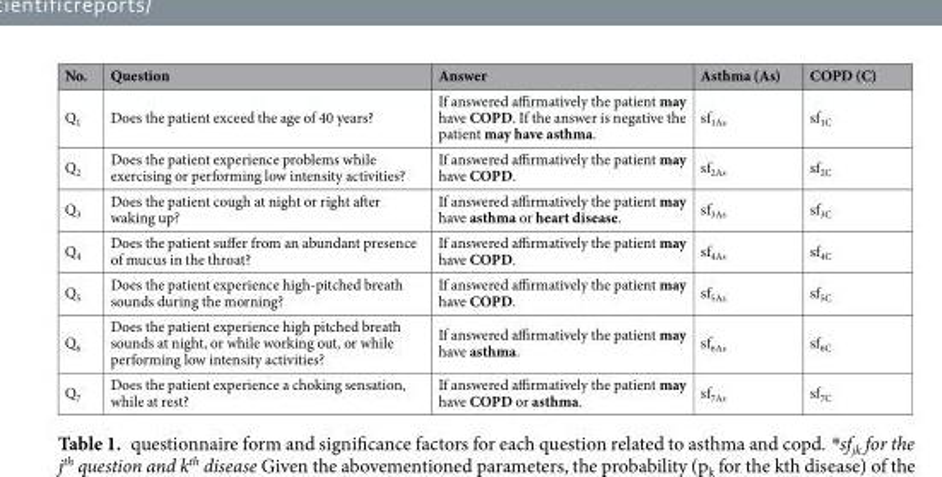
<table><thead><tr><td>No.</td><td>Question</td><td>Answer</td><td>Asthma (As)</td><td>COPD (C)</td></tr></thead><tbody><tr><td>Q<sub>1</sub></td><td>Does the patient exceed the age of 40 years?</td><td>If answered affirmatively the patient may have COPD. If the answer is negative the patient may have asthma.</td><td>sf<sub>1As</sub></td><td>sf<sub>1C</sub></td></tr><tr><td>Q<sub>2</sub></td><td>Does the patient experience problems while exercising or performing low intensity activities?</td><td>If answered affirmatively the patient may have COPD.</td><td>sf<sub>2As</sub></td><td>sf<sub>2C</sub></td></tr><tr><td>Q<sub>3</sub></td><td>Does the patient cough at night or right after waking up?</td><td>If answered affirmatively the patient may have asthma or heart disease.</td><td>sf<sub>3As</sub></td><td>sf<sub>3C</sub></td></tr><tr><td>Q<sub>4</sub></td><td>Does the patient suffer from an abundant presence of mucus in the throat?</td><td>If answered affirmatively the patient may have COPD.</td><td>sf<sub>4As</sub></td><td>sf<sub>4C</sub></td></tr><tr><td>Q<sub>5</sub></td><td>Does the patient experience high-pitched breath sounds during the morning?</td><td>If answered affirmatively the patient may have COPD.</td><td>sf<sub>5As</sub></td><td>sf<sub>5C</sub></td></tr><tr><td>Q<sub>6</sub></td><td>Does the patient experience high pitched breath sounds at night, or while working out, or while performing low intensity activities?</td><td>If answered affirmatively the patient may have asthma.</td><td>sf<sub>6As</sub></td><td>sf<sub>6C</sub></td></tr><tr><td>Q<sub>7</sub></td><td>Does the patient experience a choking sensation, while at rest?</td><td>If answered affirmatively the patient may have COPD or asthma.</td><td>sf<sub>7As</sub></td><td>sf<sub>7C</sub></td></tr></tbody></table>